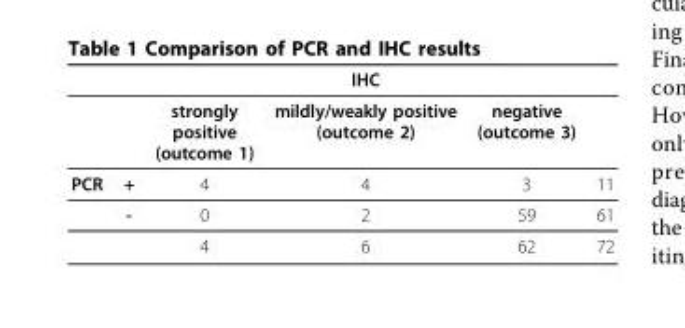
<table><thead><tr><td rowspan="2"></td><td rowspan="2"></td><td colspan="3">IHC</td><td rowspan="2"></td></tr><tr><td>strongly positive (outcome 1)</td><td>mildly/weakly positive (outcome 2)</td><td>negative (outcome 3)</td></tr></thead><tbody><tr><td rowspan="3">PCR</td><td>+</td><td>4</td><td>4</td><td>3</td><td>11</td></tr><tr><td>-</td><td>0</td><td>2</td><td>59</td><td>61</td></tr><tr><td></td><td>4</td><td>6</td><td>62</td><td>72</td></tr></tbody></table>